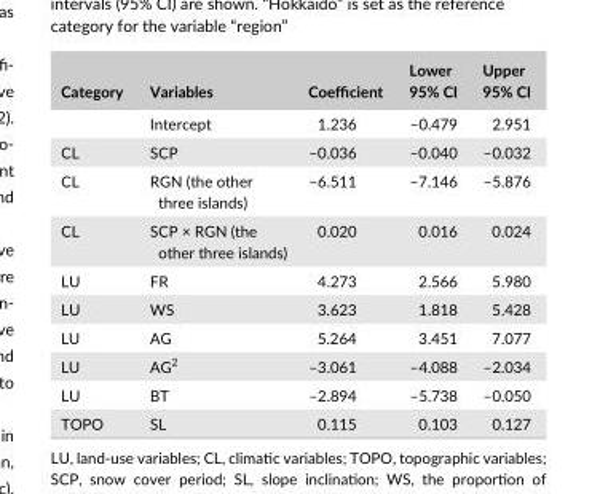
<table><thead><tr><td>Category</td><td>Variables</td><td>Coefficient</td><td>Lower 95% CI</td><td>Upper 95% CI</td></tr></thead><tbody><tr><td></td><td>Intercept</td><td>1.236</td><td>–0.479</td><td>2.951</td></tr><tr><td>CL</td><td>SCP</td><td>–0.036</td><td>–0.040</td><td>–0.032</td></tr><tr><td>CL</td><td>RGN (the other three islands)</td><td>–6.511</td><td>–7.146</td><td>–5.876</td></tr><tr><td>CL</td><td>SCP × RGN (the other three islands)</td><td>0.020</td><td>0.016</td><td>0.024</td></tr><tr><td>LU</td><td>FR</td><td>4.273</td><td>2.566</td><td>5.980</td></tr><tr><td>LU</td><td>WS</td><td>3.623</td><td>1.818</td><td>5.428</td></tr><tr><td>LU</td><td>AG</td><td>5.264</td><td>3.451</td><td>7.077</td></tr><tr><td>LU</td><td>AG<sup>2</sup></td><td>–3.061</td><td>–4.088</td><td>–2.034</td></tr><tr><td>LU</td><td>BT</td><td>–2.894</td><td>–5.738</td><td>–0.050</td></tr><tr><td>TOPO</td><td>SL</td><td>0.115</td><td>0.103</td><td>0.127</td></tr></tbody></table>